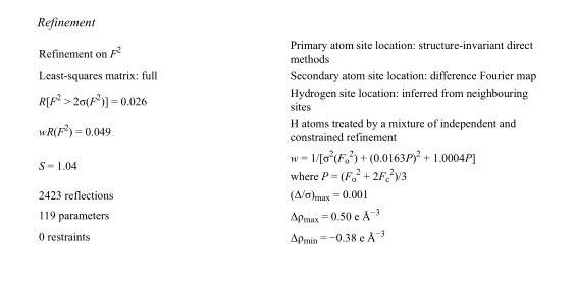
<table><tbody><tr><td>Refinement on F<sup>2</sup></td><td>Primary atom site location: structure-invariant direct methods</td></tr><tr><td>Least-squares matrix: full</td><td>Secondary atom site location: difference Fourier map</td></tr><tr><td>R[F<sup>2</sup> &gt; 2σ(F<sup>2</sup>)] = 0.026</td><td>Hydrogen site location: inferred from neighbouring sites</td></tr><tr><td>wR(F<sup>2</sup>) = 0.049</td><td>H atoms treated by a mixture of independent and constrained refinement</td></tr><tr><td>S = 1.04</td><td>w = 1/[σ<sup>2</sup>(F<sub>o</sub> <sup>2</sup>) + (0.0163P)<sup>2</sup> + 1.0004P] where P = (F<sub>o</sub> <sup>2</sup> + 2F<sub>c</sub> <sup>2</sup>)/3</td></tr><tr><td>2423 reflections</td><td>(Δ/σ)<sub>max</sub> = 0.001</td></tr><tr><td>119 parameters</td><td>Δρ<sub>max</sub> = 0.50 e Å<sup>−3</sup></td></tr><tr><td>0 restraints</td><td>Δρ<sub>min</sub> = −0.38 e Å<sup>−3</sup></td></tr></tbody></table>